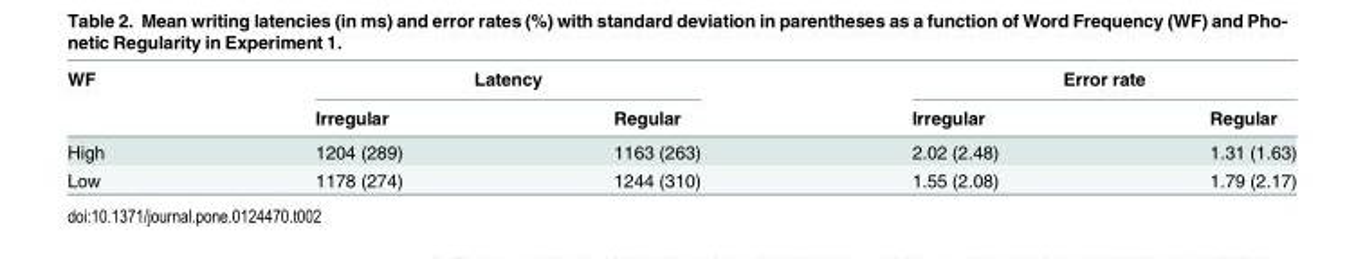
<table><thead><tr><td rowspan="2">WF</td><td colspan="2">Latency</td><td colspan="2">Error rate</td></tr><tr><td>Irregular</td><td>Regular</td><td>Irregular</td><td>Regular</td></tr></thead><tbody><tr><td>High</td><td>1204 (289)</td><td>1163 (263)</td><td>2.02 (2.48)</td><td>1.31 (1.63)</td></tr><tr><td>Low</td><td>1178 (274)</td><td>1244 (310)</td><td>1.55 (2.08)</td><td>1.79 (2.17)</td></tr></tbody></table>